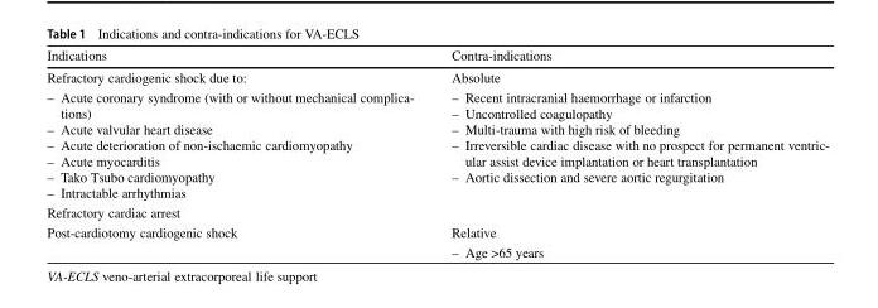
<table><thead><tr><td>Indications</td><td>Contra-indications</td></tr></thead><tbody><tr><td>Refractory cardiogenic shock due to:</td><td>Absolute</td></tr><tr><td>– Acute coronary syndrome (with or without mechanical complica- tions) – Acute valvular heart disease – Acute deterioration of non-ischaemic cardiomyopathy – Acute myocarditis – Tako Tsubo cardiomyopathy – Intractable arrhythmias</td><td>– Recent intracranial haemorrhage or infarction – Uncontrolled coagulopathy – Multi-trauma with high risk of bleeding – Irreversible cardiac disease with no prospect for permanent ventric- ular assist device implantation or heart transplantation – Aortic dissection and severe aortic regurgitation</td></tr><tr><td colspan="2">Refractory cardiac arrest</td></tr><tr><td rowspan="2">Post-cardiotomy cardiogenic shock</td><td>Relative</td></tr><tr><td>– Age &gt;65 years</td></tr></tbody></table>